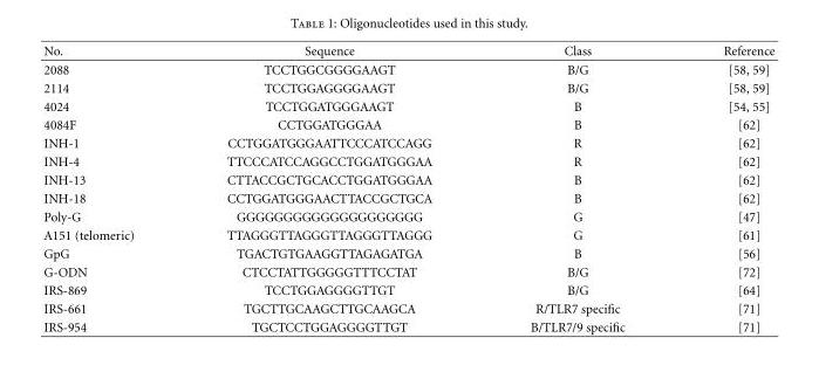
<table><thead><tr><td>No.</td><td>Sequence</td><td>Class</td><td>Reference</td></tr></thead><tbody><tr><td>2088</td><td>TCCTGGCGGGGAAGT</td><td>B/G</td><td>[58, 59]</td></tr><tr><td>2114</td><td>TCCTGGAGGGGAAGT</td><td>B/G</td><td>[58, 59]</td></tr><tr><td>4024</td><td>TCCTGGATGGGAAGT</td><td>B</td><td>[54, 55]</td></tr><tr><td>4084F</td><td>CCTGGATGGGAA</td><td>B</td><td>[62]</td></tr><tr><td>INH-1</td><td>CCTGGATGGGAATTCCCATCCAGG</td><td>R</td><td>[62]</td></tr><tr><td>INH-4</td><td>TTCCCATCCAGGCCTGGATGGGAA</td><td>R</td><td>[62]</td></tr><tr><td>INH-13</td><td>CTTACCGCTGCACCTGGATGGGAA</td><td>B</td><td>[62]</td></tr><tr><td>INH-18</td><td>CCTGGATGGGAACTTACCGCTGCA</td><td>B</td><td>[62]</td></tr><tr><td>Poly-G</td><td>GGGGGGGGGGGGGGGGGGGG</td><td>G</td><td>[47]</td></tr><tr><td>A151 (telomeric)</td><td>TTAGGGTTAGGGTTAGGGTTAGGG</td><td>G</td><td>[61]</td></tr><tr><td>GpG</td><td>TGACTGTGAAGGTTAGAGATGA</td><td>B</td><td>[56]</td></tr><tr><td>G-ODN</td><td>CTCCTATTGGGGGTTTCCTAT</td><td>B/G</td><td>[72]</td></tr><tr><td>IRS-869</td><td>TCCTGGAGGGGTTGT</td><td>B/G</td><td>[64]</td></tr><tr><td>IRS-661</td><td>TGCTTGCAAGCTTGCAAGCA</td><td>R/TLR7 specific</td><td>[71]</td></tr><tr><td>IRS-954</td><td>TGCTCCTGGAGGGGTTGT</td><td>B/TLR7/9 specific</td><td>[71]</td></tr></tbody></table>